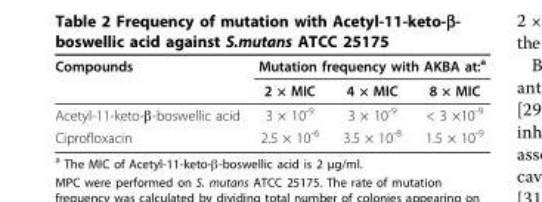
<table><thead><tr><td rowspan="2">Compounds</td><td colspan="3">Mutation frequency with AKBA at:<sup>a</sup></td></tr><tr><td>2 × MIC</td><td>4 × MIC</td><td>8 × MIC</td></tr></thead><tbody><tr><td>Acetyl-11-keto-β-boswellic acid</td><td>3 × 10<sup>-9</sup></td><td>3 × 10<sup>-9</sup></td><td>&lt; 3 ×10<sup>-9</sup></td></tr><tr><td>Ciprofloxacin</td><td>2.5 × 10<sup>-6</sup></td><td>3.5 × 10<sup>-8</sup></td><td>1.5 × 10<sup>-9</sup></td></tr></tbody></table>